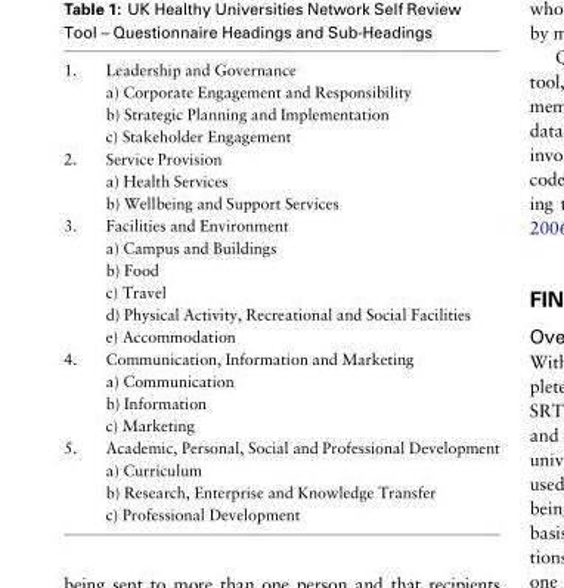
<table><tbody><tr><td rowspan="4">1.</td><td>Leadership and Governance</td></tr><tr><td>a) Corporate Engagement and Responsibility</td></tr><tr><td>b) Strategic Planning and Implementation</td></tr><tr><td>c) Stakeholder Engagement</td></tr><tr><td rowspan="3">2.</td><td>Service Provision</td></tr><tr><td>a) Health Services</td></tr><tr><td>b) Wellbeing and Support Services</td></tr><tr><td rowspan="6">3.</td><td>Facilities and Environment</td></tr><tr><td>a) Campus and Buildings</td></tr><tr><td>b) Food</td></tr><tr><td>c) Travel</td></tr><tr><td>d) Physical Activity, Recreational and Social Facilities</td></tr><tr><td>e) Accommodation</td></tr><tr><td rowspan="4">4.</td><td>Communication, Information and Marketing</td></tr><tr><td>a) Communication</td></tr><tr><td>b) Information</td></tr><tr><td>c) Marketing</td></tr><tr><td rowspan="4">5.</td><td>Academic, Personal, Social and Professional Development</td></tr><tr><td>a) Curriculum</td></tr><tr><td>b) Research, Enterprise and Knowledge Transfer</td></tr><tr><td>c) Professional Development</td></tr></tbody></table>